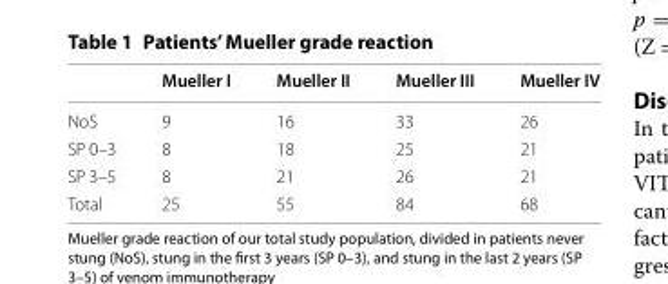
<table><thead><tr><td></td><td>Mueller I</td><td>Mueller II</td><td>Mueller III</td><td>Mueller IV</td></tr></thead><tbody><tr><td>NoS</td><td>9</td><td>16</td><td>33</td><td>26</td></tr><tr><td>SP 0–3</td><td>8</td><td>18</td><td>25</td><td>21</td></tr><tr><td>SP 3–5</td><td>8</td><td>21</td><td>26</td><td>21</td></tr><tr><td>Total</td><td>25</td><td>55</td><td>84</td><td>68</td></tr></tbody></table>